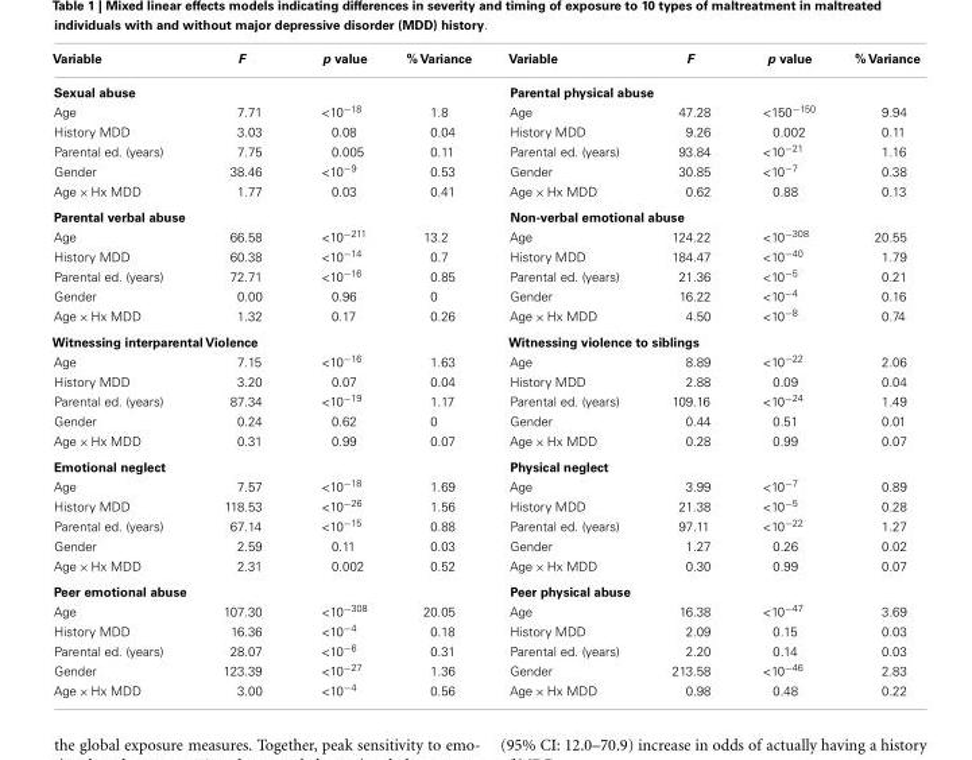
<table><thead><tr><td>Variable</td><td>F</td><td>p value</td><td>% Variance</td><td>Variable</td><td>F</td><td>p value</td><td>% Variance</td></tr></thead><tbody><tr><td colspan="4">Sexual abuse</td><td colspan="4">Parental physical abuse</td></tr><tr><td>Age</td><td>7.71</td><td>&lt;10<sup>−18</sup></td><td>1.8</td><td>Age</td><td>47.28</td><td>&lt;150<sup>−150</sup></td><td>9.94</td></tr><tr><td>History MDD</td><td>3.03</td><td>0.08</td><td>0.04</td><td>History MDD</td><td>9.26</td><td>0.002</td><td>0.11</td></tr><tr><td>Parental ed. (years)</td><td>7.75</td><td>0.005</td><td>0.11</td><td>Parental ed. (years)</td><td>93.84</td><td>&lt;10<sup>−21</sup></td><td>1.16</td></tr><tr><td>Gender</td><td>38.46</td><td>&lt;10<sup>−9</sup></td><td>0.53</td><td>Gender</td><td>30.85</td><td>&lt;10<sup>−7</sup></td><td>0.38</td></tr><tr><td>Age × Hx MDD</td><td>1.77</td><td>0.03</td><td>0.41</td><td>Age × Hx MDD</td><td>0.62</td><td>0.88</td><td>0.13</td></tr><tr><td colspan="4">Parental verbal abuse</td><td colspan="4">Non-verbal emotional abuse</td></tr><tr><td>Age</td><td>66.58</td><td>&lt;10<sup>−211</sup></td><td>13.2</td><td>Age</td><td>124.22</td><td>&lt;10<sup>−308</sup></td><td>20.55</td></tr><tr><td>History MDD</td><td>60.38</td><td>&lt;10<sup>−14</sup></td><td>0.7</td><td>History MDD</td><td>184.47</td><td>&lt;10<sup>−40</sup></td><td>1.79</td></tr><tr><td>Parental ed. (years)</td><td>72.71</td><td>&lt;10<sup>−16</sup></td><td>0.85</td><td>Parental ed. (years)</td><td>21.36</td><td>&lt;10<sup>−5</sup></td><td>0.21</td></tr><tr><td>Gender</td><td>0.00</td><td>0.96</td><td>0</td><td>Gender</td><td>16.22</td><td>&lt;10<sup>−4</sup></td><td>0.16</td></tr><tr><td>Age × Hx MDD</td><td>1.32</td><td>0.17</td><td>0.26</td><td>Age × Hx MDD</td><td>4.50</td><td>&lt;10<sup>−8</sup></td><td>0.74</td></tr><tr><td colspan="4">Witnessing interparental Violence</td><td colspan="4">Witnessing violence to siblings</td></tr><tr><td>Age</td><td>7.15</td><td>&lt;10<sup>−16</sup></td><td>1.63</td><td>Age</td><td>8.89</td><td>&lt;10<sup>−22</sup></td><td>2.06</td></tr><tr><td>History MDD</td><td>3.20</td><td>0.07</td><td>0.04</td><td>History MDD</td><td>2.88</td><td>0.09</td><td>0.04</td></tr><tr><td>Parental ed. (years)</td><td>87.34</td><td>&lt;10<sup>−19</sup></td><td>1.17</td><td>Parental ed. (years)</td><td>109.16</td><td>&lt;10<sup>−24</sup></td><td>1.49</td></tr><tr><td>Gender</td><td>0.24</td><td>0.62</td><td>0</td><td>Gender</td><td>0.44</td><td>0.51</td><td>0.01</td></tr><tr><td>Age × Hx MDD</td><td>0.31</td><td>0.99</td><td>0.07</td><td>Age × Hx MDD</td><td>0.28</td><td>0.99</td><td>0.07</td></tr><tr><td colspan="4">Emotional neglect</td><td colspan="4">Physical neglect</td></tr><tr><td>Age</td><td>7.57</td><td>&lt;10<sup>−18</sup></td><td>1.69</td><td>Age</td><td>3.99</td><td>&lt;10<sup>−7</sup></td><td>0.89</td></tr><tr><td>History MDD</td><td>118.53</td><td>&lt;10<sup>−26</sup></td><td>1.56</td><td>History MDD</td><td>21.38</td><td>&lt;10<sup>−5</sup></td><td>0.28</td></tr><tr><td>Parental ed. (years)</td><td>67.14</td><td>&lt;10<sup>−15</sup></td><td>0.88</td><td>Parental ed. (years)</td><td>97.11</td><td>&lt;10<sup>−22</sup></td><td>1.27</td></tr><tr><td>Gender</td><td>2.59</td><td>0.11</td><td>0.03</td><td>Gender</td><td>1.27</td><td>0.26</td><td>0.02</td></tr><tr><td>Age × Hx MDD</td><td>2.31</td><td>0.002</td><td>0.52</td><td>Age × Hx MDD</td><td>0.30</td><td>0.99</td><td>0.07</td></tr><tr><td colspan="4">Peer emotional abuse</td><td colspan="4">Peer physical abuse</td></tr><tr><td>Age</td><td>107.30</td><td>&lt;10<sup>−308</sup></td><td>20.05</td><td>Age</td><td>16.38</td><td>&lt;10<sup>−47</sup></td><td>3.69</td></tr><tr><td>History MDD</td><td>16.36</td><td>&lt;10<sup>−4</sup></td><td>0.18</td><td>History MDD</td><td>2.09</td><td>0.15</td><td>0.03</td></tr><tr><td>Parental ed. (years)</td><td>28.07</td><td>&lt;10<sup>−6</sup></td><td>0.31</td><td>Parental ed. (years)</td><td>2.20</td><td>0.14</td><td>0.03</td></tr><tr><td>Gender</td><td>123.39</td><td>&lt;10<sup>−27</sup></td><td>1.36</td><td>Gender</td><td>213.58</td><td>&lt;10<sup>−46</sup></td><td>2.83</td></tr><tr><td>Age × Hx MDD</td><td>3.00</td><td>&lt;10<sup>−4</sup></td><td>0.56</td><td>Age × Hx MDD</td><td>0.98</td><td>0.48</td><td>0.22</td></tr></tbody></table>